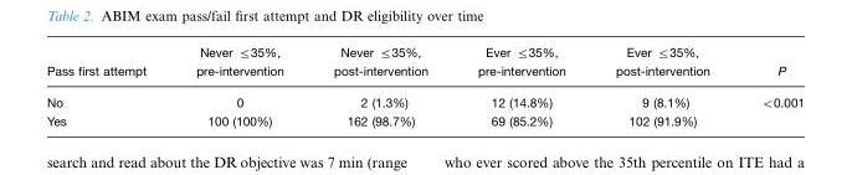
<table><thead><tr><td>Pass first attempt</td><td>Never ≤35%, pre-intervention</td><td>Never ≤35%, post-intervention</td><td>Ever ≤35%, pre-intervention</td><td>Ever ≤35%, post-intervention</td><td>P</td></tr></thead><tbody><tr><td>No</td><td>0</td><td>2 (1.3%)</td><td>12 (14.8%)</td><td>9 (8.1%)</td><td>&lt;0.001</td></tr><tr><td>Yes</td><td>100 (100%)</td><td>162 (98.7%)</td><td>69 (85.2%)</td><td>102 (91.9%)</td><td></td></tr></tbody></table>